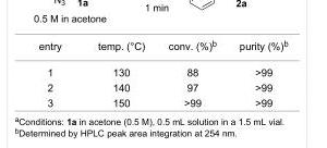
<table><tbody><tr><td>entry</td><td>temp. (°C)</td><td>conv. (%)<sup>b</sup></td><td>purity (%)<sup>b</sup></td></tr><tr><td>1</td><td>130</td><td>88</td><td>&gt;99</td></tr><tr><td>2</td><td>140</td><td>97</td><td>&gt;99</td></tr><tr><td>3</td><td>150</td><td>&gt;99</td><td>&gt;99</td></tr></tbody></table>